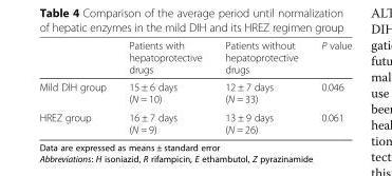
<table><thead><tr><td></td><td>Patients with hepatoprotective drugs</td><td>Patients without hepatoprotective drugs</td><td>P value</td></tr></thead><tbody><tr><td>Mild DIH group</td><td>15 ± 6 days (N = 10)</td><td>12 ± 7 days (N = 33)</td><td>0.046</td></tr><tr><td>HREZ group</td><td>16 ± 7 days (N = 9)</td><td>13 ± 9 days (N = 26)</td><td>0.061</td></tr></tbody></table>